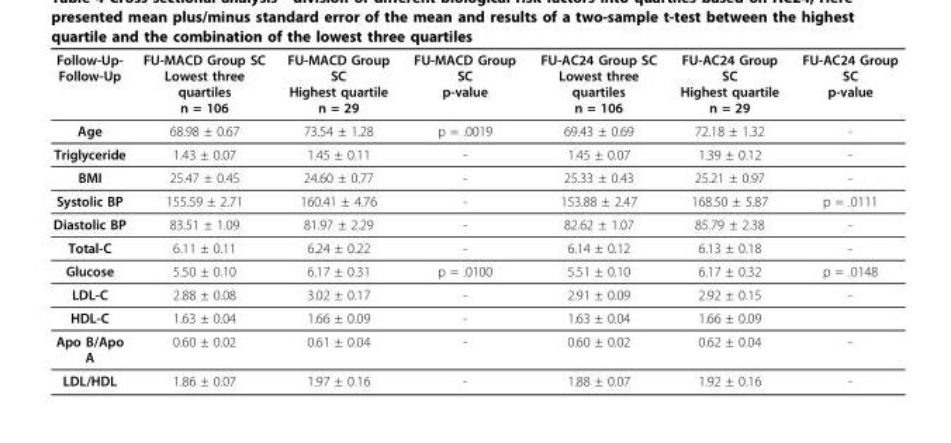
<table><thead><tr><td>Follow-Up- Follow-Up</td><td>FU-MACD Group SC Lowest three quartiles n = 106</td><td>FU-MACD Group SC Highest quartile n = 29</td><td>FU-MACD Group SC p-value</td><td>FU-AC24 Group SC Lowest three quartiles n = 106</td><td>FU-AC24 Group SC Highest quartile n = 29</td><td>FU-AC24 Group SC p-value</td></tr></thead><tbody><tr><td>Age</td><td>68.98 ± 0.67</td><td>73.54 ± 1.28</td><td>p = .0019</td><td>69.43 ± 0.69</td><td>72.18 ± 1.32</td><td>-</td></tr><tr><td>Triglyceride</td><td>1.43 ± 0.07</td><td>1.45 ± 0.11</td><td>-</td><td>1.45 ± 0.07</td><td>1.39 ± 0.12</td><td>-</td></tr><tr><td>BMI</td><td>25.47 ± 0.45</td><td>24.60 ± 0.77</td><td>-</td><td>25.33 ± 0.43</td><td>25.21 ± 0.97</td><td>-</td></tr><tr><td>Systolic BP</td><td>155.59 ± 2.71</td><td>160.41 ± 4.76</td><td>-</td><td>153.88 ± 2.47</td><td>168.50 ± 5.87</td><td>p = .0111</td></tr><tr><td>Diastolic BP</td><td>83.51 ± 1.09</td><td>81.97 ± 2.29</td><td>-</td><td>82.62 ± 1.07</td><td>85.79 ± 2.38</td><td>-</td></tr><tr><td>Total-C</td><td>6.11 ± 0.11</td><td>6.24 ± 0.22</td><td>-</td><td>6.14 ± 0.12</td><td>6.13 ± 0.18</td><td>-</td></tr><tr><td>Glucose</td><td>5.50 ± 0.10</td><td>6.17 ± 0.31</td><td>p = .0100</td><td>5.51 ± 0.10</td><td>6.17 ± 0.32</td><td>p = .0148</td></tr><tr><td>LDL-C</td><td>2.88 ± 0.08</td><td>3.02 ± 0.17</td><td>-</td><td>2.91 ± 0.09</td><td>2.92 ± 0.15</td><td>-</td></tr><tr><td>HDL-C</td><td>1.63 ± 0.04</td><td>1.66 ± 0.09</td><td>-</td><td>1.63 ± 0.04</td><td>1.66 ± 0.09</td><td></td></tr><tr><td>Apo B/Apo A</td><td>0.60 ± 0.02</td><td>0.61 ± 0.04</td><td>-</td><td>0.60 ± 0.02</td><td>0.62 ± 0.04</td><td>-</td></tr><tr><td>LDL/HDL</td><td>1.86 ± 0.07</td><td>1.97 ± 0.16</td><td>-</td><td>1.88 ± 0.07</td><td>1.92 ± 0.16</td><td>-</td></tr></tbody></table>